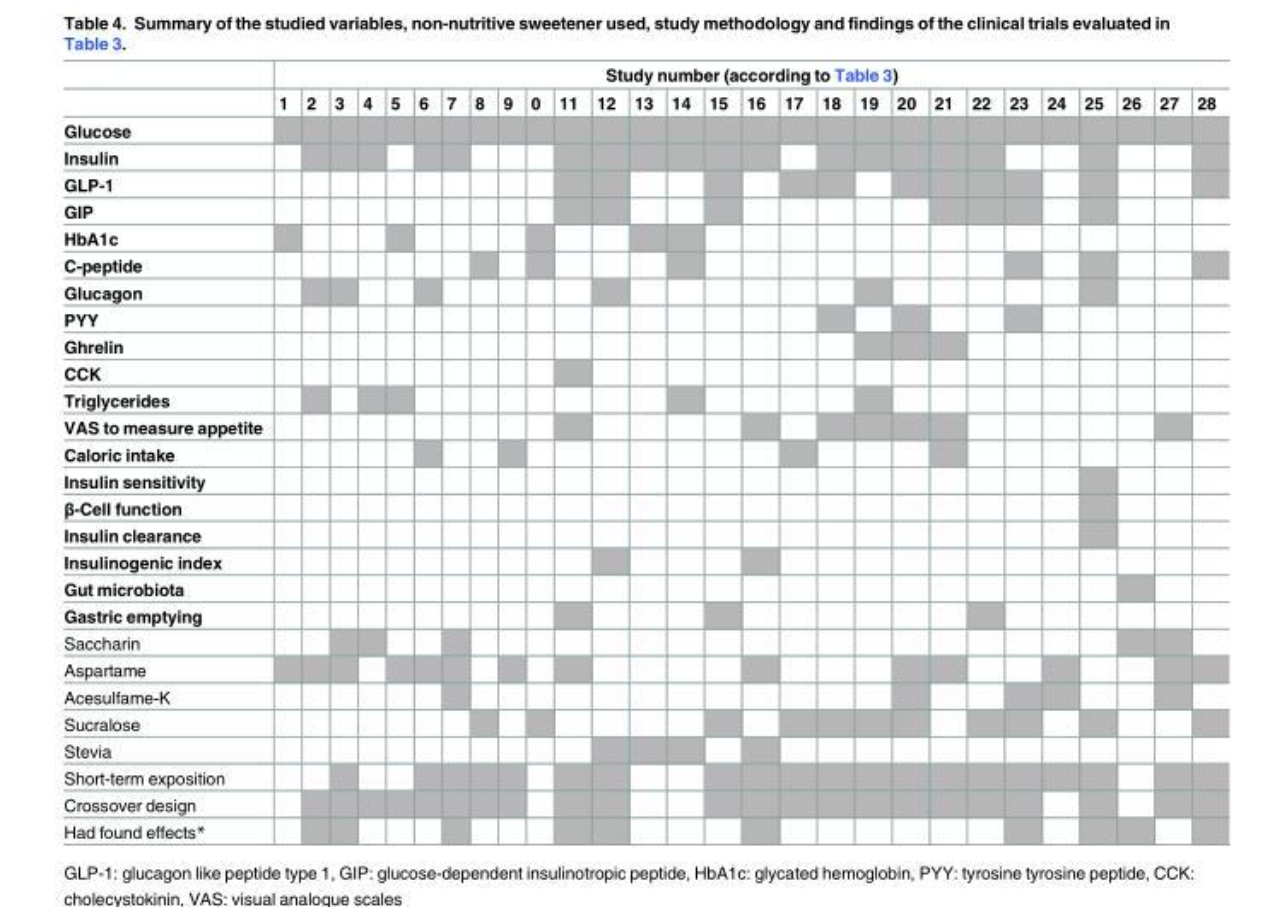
<table><thead><tr><td rowspan="2"></td><td colspan="28">Study number (according to Table 3)</td></tr><tr><td>1</td><td>2</td><td>3</td><td>4</td><td>5</td><td>6</td><td>7</td><td>8</td><td>9</td><td>0</td><td>11</td><td>12</td><td>13</td><td>14</td><td>15</td><td>16</td><td>17</td><td>18</td><td>19</td><td>20</td><td>21</td><td>22</td><td>23</td><td>24</td><td>25</td><td>26</td><td>27</td><td>28</td></tr></thead><tbody><tr><td colspan="29">Glucose</td></tr><tr><td colspan="29">Insulin</td></tr><tr><td colspan="29">GLP-1</td></tr><tr><td colspan="29">GIP</td></tr><tr><td colspan="29">HbA1c</td></tr><tr><td colspan="29">C-peptide</td></tr><tr><td colspan="29">Glucagon</td></tr><tr><td colspan="29">PYY</td></tr><tr><td colspan="29">Ghrelin</td></tr><tr><td colspan="29">CCK</td></tr><tr><td colspan="29">Triglycerides</td></tr><tr><td colspan="29">VAS to measure appetite</td></tr><tr><td colspan="29">Caloric intake</td></tr><tr><td colspan="29">Insulin sensitivity</td></tr><tr><td colspan="29">β-Cell function</td></tr><tr><td colspan="29">Insulin clearance</td></tr><tr><td colspan="29">Insulinogenic index</td></tr><tr><td colspan="29">Gut microbiota</td></tr><tr><td colspan="29">Gastric emptying</td></tr><tr><td colspan="29">Saccharin</td></tr><tr><td colspan="29">Aspartame</td></tr><tr><td colspan="29">Acesulfame-K</td></tr><tr><td colspan="29">Sucralose</td></tr><tr><td colspan="29">Stevia</td></tr><tr><td colspan="29">Short-term exposition</td></tr><tr><td colspan="29">Crossover design</td></tr><tr><td>Had found effects*</td><td></td><td></td><td></td><td></td><td></td><td></td><td></td><td></td><td></td><td></td><td></td><td></td><td></td><td></td><td></td><td></td><td></td><td></td><td></td><td></td><td></td><td></td><td></td><td></td><td></td><td></td><td></td><td></td></tr></tbody></table>